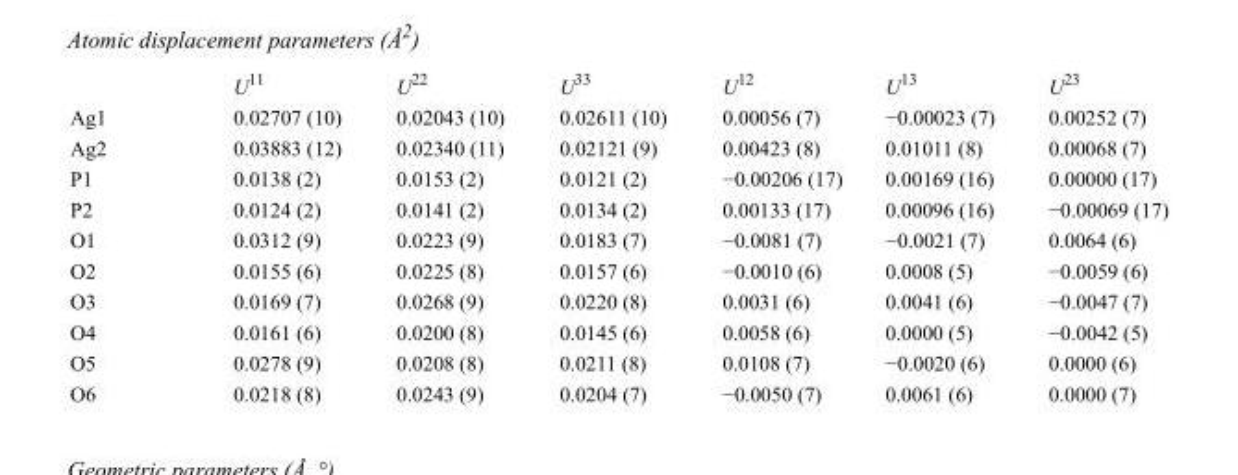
<table><thead><tr><td></td><td>U<sup>11</sup></td><td>U<sup>22</sup></td><td>U<sup>33</sup></td><td>U<sup>12</sup></td><td>U<sup>13</sup></td><td>U<sup>23</sup></td></tr></thead><tbody><tr><td>Ag1</td><td>0.02707 (10)</td><td>0.02043 (10)</td><td>0.02611 (10)</td><td>0.00056 (7)</td><td>−0.00023 (7)</td><td>0.00252 (7)</td></tr><tr><td>Ag2</td><td>0.03883 (12)</td><td>0.02340 (11)</td><td>0.02121 (9)</td><td>0.00423 (8)</td><td>0.01011 (8)</td><td>0.00068 (7)</td></tr><tr><td>P1</td><td>0.0138 (2)</td><td>0.0153 (2)</td><td>0.0121 (2)</td><td>−0.00206 (17)</td><td>0.00169 (16)</td><td>0.00000 (17)</td></tr><tr><td>P2</td><td>0.0124 (2)</td><td>0.0141 (2)</td><td>0.0134 (2)</td><td>0.00133 (17)</td><td>0.00096 (16)</td><td>−0.00069 (17)</td></tr><tr><td>O1</td><td>0.0312 (9)</td><td>0.0223 (9)</td><td>0.0183 (7)</td><td>−0.0081 (7)</td><td>−0.0021 (7)</td><td>0.0064 (6)</td></tr><tr><td>O2</td><td>0.0155 (6)</td><td>0.0225 (8)</td><td>0.0157 (6)</td><td>−0.0010 (6)</td><td>0.0008 (5)</td><td>−0.0059 (6)</td></tr><tr><td>O3</td><td>0.0169 (7)</td><td>0.0268 (9)</td><td>0.0220 (8)</td><td>0.0031 (6)</td><td>0.0041 (6)</td><td>−0.0047 (7)</td></tr><tr><td>O4</td><td>0.0161 (6)</td><td>0.0200 (8)</td><td>0.0145 (6)</td><td>0.0058 (6)</td><td>0.0000 (5)</td><td>−0.0042 (5)</td></tr><tr><td>O5</td><td>0.0278 (9)</td><td>0.0208 (8)</td><td>0.0211 (8)</td><td>0.0108 (7)</td><td>−0.0020 (6)</td><td>0.0000 (6)</td></tr><tr><td>O6</td><td>0.0218 (8)</td><td>0.0243 (9)</td><td>0.0204 (7)</td><td>−0.0050 (7)</td><td>0.0061 (6)</td><td>0.0000 (7)</td></tr></tbody></table>